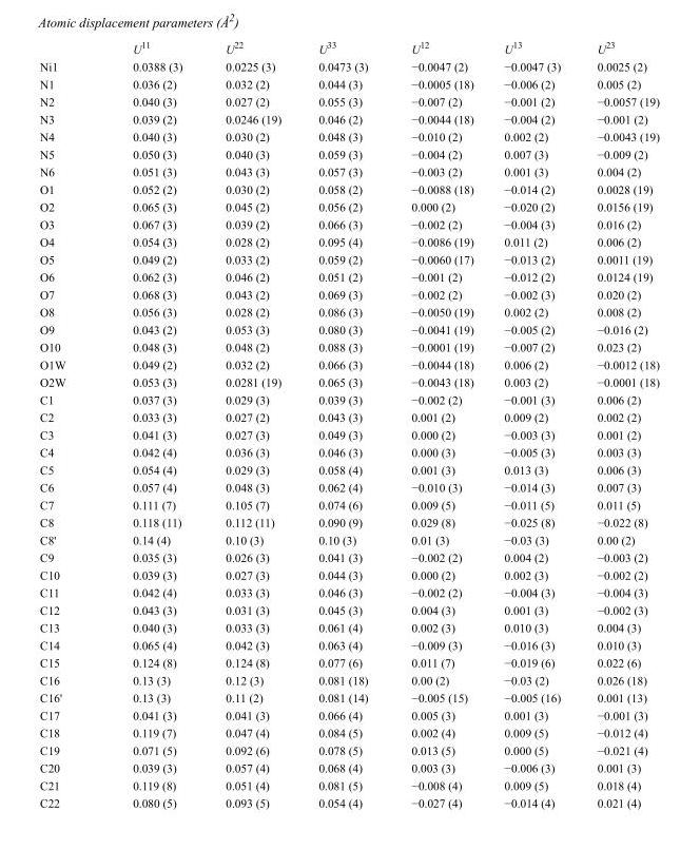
<table><thead><tr><td></td><td>U<sup>11</sup></td><td>U<sup>22</sup></td><td>U<sup>33</sup></td><td>U<sup>12</sup></td><td>U<sup>13</sup></td><td>U<sup>23</sup></td></tr></thead><tbody><tr><td>Ni1</td><td>0.0388 (3)</td><td>0.0225 (3)</td><td>0.0473 (3)</td><td>−0.0047 (2)</td><td>−0.0047 (3)</td><td>0.0025 (2)</td></tr><tr><td>N1</td><td>0.036 (2)</td><td>0.032 (2)</td><td>0.044 (3)</td><td>−0.0005 (18)</td><td>−0.006 (2)</td><td>0.005 (2)</td></tr><tr><td>N2</td><td>0.040 (3)</td><td>0.027 (2)</td><td>0.055 (3)</td><td>−0.007 (2)</td><td>−0.001 (2)</td><td>−0.0057 (19)</td></tr><tr><td>N3</td><td>0.039 (2)</td><td>0.0246 (19)</td><td>0.046 (2)</td><td>−0.0044 (18)</td><td>−0.004 (2)</td><td>−0.001 (2)</td></tr><tr><td>N4</td><td>0.040 (3)</td><td>0.030 (2)</td><td>0.048 (3)</td><td>−0.010 (2)</td><td>0.002 (2)</td><td>−0.0043 (19)</td></tr><tr><td>N5</td><td>0.050 (3)</td><td>0.040 (3)</td><td>0.059 (3)</td><td>−0.004 (2)</td><td>0.007 (3)</td><td>−0.009 (2)</td></tr><tr><td>N6</td><td>0.051 (3)</td><td>0.043 (3)</td><td>0.057 (3)</td><td>−0.003 (2)</td><td>0.001 (3)</td><td>0.004 (2)</td></tr><tr><td>O1</td><td>0.052 (2)</td><td>0.030 (2)</td><td>0.058 (2)</td><td>−0.0088 (18)</td><td>−0.014 (2)</td><td>0.0028 (19)</td></tr><tr><td>O2</td><td>0.065 (3)</td><td>0.045 (2)</td><td>0.056 (2)</td><td>0.000 (2)</td><td>−0.020 (2)</td><td>0.0156 (19)</td></tr><tr><td>O3</td><td>0.067 (3)</td><td>0.039 (2)</td><td>0.066 (3)</td><td>−0.002 (2)</td><td>−0.004 (3)</td><td>0.016 (2)</td></tr><tr><td>O4</td><td>0.054 (3)</td><td>0.028 (2)</td><td>0.095 (4)</td><td>−0.0086 (19)</td><td>0.011 (2)</td><td>0.006 (2)</td></tr><tr><td>O5</td><td>0.049 (2)</td><td>0.033 (2)</td><td>0.059 (2)</td><td>−0.0060 (17)</td><td>−0.013 (2)</td><td>0.0011 (19)</td></tr><tr><td>O6</td><td>0.062 (3)</td><td>0.046 (2)</td><td>0.051 (2)</td><td>−0.001 (2)</td><td>−0.012 (2)</td><td>0.0124 (19)</td></tr><tr><td>O7</td><td>0.068 (3)</td><td>0.043 (2)</td><td>0.069 (3)</td><td>−0.002 (2)</td><td>−0.002 (3)</td><td>0.020 (2)</td></tr><tr><td>O8</td><td>0.056 (3)</td><td>0.028 (2)</td><td>0.086 (3)</td><td>−0.0050 (19)</td><td>0.002 (2)</td><td>0.008 (2)</td></tr><tr><td>O9</td><td>0.043 (2)</td><td>0.053 (3)</td><td>0.080 (3)</td><td>−0.0041 (19)</td><td>−0.005 (2)</td><td>−0.016 (2)</td></tr><tr><td>O10</td><td>0.048 (3)</td><td>0.048 (2)</td><td>0.088 (3)</td><td>−0.0001 (19)</td><td>−0.007 (2)</td><td>0.023 (2)</td></tr><tr><td>O1W</td><td>0.049 (2)</td><td>0.032 (2)</td><td>0.066 (3)</td><td>−0.0044 (18)</td><td>0.006 (2)</td><td>−0.0012 (18)</td></tr><tr><td>O2W</td><td>0.053 (3)</td><td>0.0281 (19)</td><td>0.065 (3)</td><td>−0.0043 (18)</td><td>0.003 (2)</td><td>−0.0001 (18)</td></tr><tr><td>C1</td><td>0.037 (3)</td><td>0.029 (3)</td><td>0.039 (3)</td><td>−0.002 (2)</td><td>−0.001 (3)</td><td>0.006 (2)</td></tr><tr><td>C2</td><td>0.033 (3)</td><td>0.027 (2)</td><td>0.043 (3)</td><td>0.001 (2)</td><td>0.009 (2)</td><td>0.002 (2)</td></tr><tr><td>C3</td><td>0.041 (3)</td><td>0.027 (3)</td><td>0.049 (3)</td><td>0.000 (2)</td><td>−0.003 (3)</td><td>0.001 (2)</td></tr><tr><td>C4</td><td>0.042 (4)</td><td>0.036 (3)</td><td>0.046 (3)</td><td>0.000 (3)</td><td>−0.005 (3)</td><td>0.003 (3)</td></tr><tr><td>C5</td><td>0.054 (4)</td><td>0.029 (3)</td><td>0.058 (4)</td><td>0.001 (3)</td><td>0.013 (3)</td><td>0.006 (3)</td></tr><tr><td>C6</td><td>0.057 (4)</td><td>0.048 (3)</td><td>0.062 (4)</td><td>−0.010 (3)</td><td>−0.014 (3)</td><td>0.007 (3)</td></tr><tr><td>C7</td><td>0.111 (7)</td><td>0.105 (7)</td><td>0.074 (6)</td><td>0.009 (5)</td><td>−0.011 (5)</td><td>0.011 (5)</td></tr><tr><td>C8</td><td>0.118 (11)</td><td>0.112 (11)</td><td>0.090 (9)</td><td>0.029 (8)</td><td>−0.025 (8)</td><td>−0.022 (8)</td></tr><tr><td>C8&#x27;</td><td>0.14 (4)</td><td>0.10 (3)</td><td>0.10 (3)</td><td>0.01 (3)</td><td>−0.03 (3)</td><td>0.00 (2)</td></tr><tr><td>C9</td><td>0.035 (3)</td><td>0.026 (3)</td><td>0.041 (3)</td><td>−0.002 (2)</td><td>0.004 (2)</td><td>−0.003 (2)</td></tr><tr><td>C10</td><td>0.039 (3)</td><td>0.027 (3)</td><td>0.044 (3)</td><td>0.000 (2)</td><td>0.002 (3)</td><td>−0.002 (2)</td></tr><tr><td>C11</td><td>0.042 (4)</td><td>0.033 (3)</td><td>0.046 (3)</td><td>−0.002 (2)</td><td>−0.004 (3)</td><td>−0.004 (3)</td></tr><tr><td>C12</td><td>0.043 (3)</td><td>0.031 (3)</td><td>0.045 (3)</td><td>0.004 (3)</td><td>0.001 (3)</td><td>−0.002 (3)</td></tr><tr><td>C13</td><td>0.040 (3)</td><td>0.033 (3)</td><td>0.061 (4)</td><td>0.002 (3)</td><td>0.010 (3)</td><td>0.004 (3)</td></tr><tr><td>C14</td><td>0.065 (4)</td><td>0.042 (3)</td><td>0.063 (4)</td><td>−0.009 (3)</td><td>−0.016 (3)</td><td>0.010 (3)</td></tr><tr><td>C15</td><td>0.124 (8)</td><td>0.124 (8)</td><td>0.077 (6)</td><td>0.011 (7)</td><td>−0.019 (6)</td><td>0.022 (6)</td></tr><tr><td>C16</td><td>0.13 (3)</td><td>0.12 (3)</td><td>0.081 (18)</td><td>0.00 (2)</td><td>−0.03 (2)</td><td>0.026 (18)</td></tr><tr><td>C16&#x27;</td><td>0.13 (3)</td><td>0.11 (2)</td><td>0.081 (14)</td><td>−0.005 (15)</td><td>−0.005 (16)</td><td>0.001 (13)</td></tr><tr><td>C17</td><td>0.041 (3)</td><td>0.041 (3)</td><td>0.066 (4)</td><td>0.005 (3)</td><td>0.001 (3)</td><td>−0.001 (3)</td></tr><tr><td>C18</td><td>0.119 (7)</td><td>0.047 (4)</td><td>0.084 (5)</td><td>0.002 (4)</td><td>0.009 (5)</td><td>−0.012 (4)</td></tr><tr><td>C19</td><td>0.071 (5)</td><td>0.092 (6)</td><td>0.078 (5)</td><td>0.013 (5)</td><td>0.000 (5)</td><td>−0.021 (4)</td></tr><tr><td>C20</td><td>0.039 (3)</td><td>0.057 (4)</td><td>0.068 (4)</td><td>0.003 (3)</td><td>−0.006 (3)</td><td>0.001 (3)</td></tr><tr><td>C21</td><td>0.119 (8)</td><td>0.051 (4)</td><td>0.081 (5)</td><td>−0.008 (4)</td><td>0.009 (5)</td><td>0.018 (4)</td></tr><tr><td>C22</td><td>0.080 (5)</td><td>0.093 (5)</td><td>0.054 (4)</td><td>−0.027 (4)</td><td>−0.014 (4)</td><td>0.021 (4)</td></tr></tbody></table>